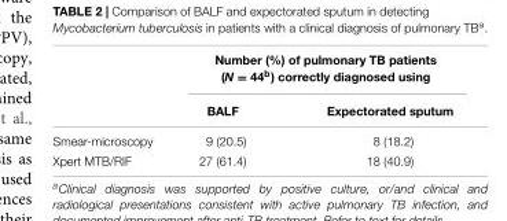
<table><thead><tr><td rowspan="2"></td><td colspan="2">Number (%) of pulmonary TB patients (N = 44<sup>b</sup>) correctly diagnosed using</td></tr><tr><td>BALF</td><td>Expectorated sputum</td></tr></thead><tbody><tr><td>Smear-microscopy</td><td>9 (20.5)</td><td>8 (18.2)</td></tr><tr><td>Xpert MTB/RIF</td><td>27 (61.4)</td><td>18 (40.9)</td></tr></tbody></table>